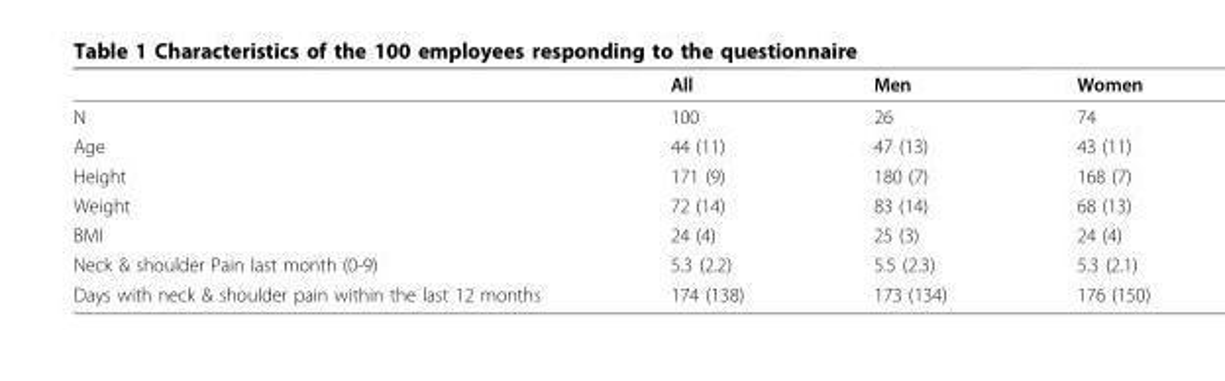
<table><thead><tr><td></td><td>All</td><td>Men</td><td>Women</td></tr></thead><tbody><tr><td>N</td><td>100</td><td>26</td><td>74</td></tr><tr><td>Age</td><td>44 (11)</td><td>47 (13)</td><td>43 (11)</td></tr><tr><td>Height</td><td>171 (9)</td><td>180 (7)</td><td>168 (7)</td></tr><tr><td>Weight</td><td>72 (14)</td><td>83 (14)</td><td>68 (13)</td></tr><tr><td>BMI</td><td>24 (4)</td><td>25 (3)</td><td>24 (4)</td></tr><tr><td>Neck &amp; shoulder Pain last month (0-9)</td><td>5.3 (2.2)</td><td>5.5 (2.3)</td><td>5.3 (2.1)</td></tr><tr><td>Days with neck &amp; shoulder pain within the last 12 months</td><td>174 (138)</td><td>173 (134)</td><td>176 (150)</td></tr></tbody></table>